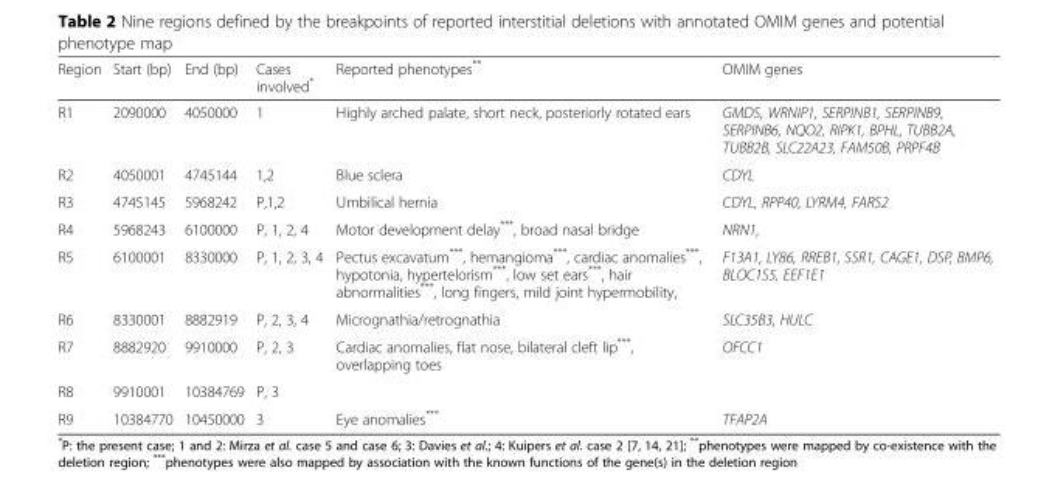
<table><thead><tr><td>Region</td><td>Start (bp)</td><td>End (bp)</td><td>Cases involved*</td><td>Reported phenotypes**</td><td>OMIM genes</td></tr></thead><tbody><tr><td>R1</td><td>2090000</td><td>4050000</td><td>1</td><td>Highly arched palate, short neck, posteriorly rotated ears</td><td>GMDS, WRNIP1, SERPINB1, SERPINB9, SERPINB6, NQO2, RIPK1, BPHL, TUBB2A, TUBB2B, SLC22A23, FAM50B, PRPF4B</td></tr><tr><td>R2</td><td>4050001</td><td>4745144</td><td>1,2</td><td>Blue sclera</td><td>CDYL</td></tr><tr><td>R3</td><td>4745145</td><td>5968242</td><td>P,1,2</td><td>Umbilical hernia</td><td>CDYL, RPP40, LYRM4, FARS2</td></tr><tr><td>R4</td><td>5968243</td><td>6100000</td><td>P, 1, 2, 4</td><td>Motor development delay***, broad nasal bridge</td><td>NRN1,</td></tr><tr><td>R5</td><td>6100001</td><td>8330000</td><td>P, 1, 2, 3, 4</td><td>Pectus excavatum***, hemangioma***, cardiac anomalies***, hypotonia, hypertelorism***, low set ears***, hair abnormalities***, long fingers, mild joint hypermobility,</td><td>F13A1, LY86, RREB1, SSR1, CAGE1, DSP, BMP6, BLOC1S5, EEF1E1</td></tr><tr><td>R6</td><td>8330001</td><td>8882919</td><td>P, 2, 3, 4</td><td>Micrognathia/retrognathia</td><td>SLC35B3, HULC</td></tr><tr><td>R7</td><td>8882920</td><td>9910000</td><td>P, 2, 3</td><td>Cardiac anomalies, flat nose, bilateral cleft lip***, overlapping toes</td><td>OFCC1</td></tr><tr><td>R8</td><td>9910001</td><td>10384769</td><td>P, 3</td><td></td><td></td></tr><tr><td>R9</td><td>10384770</td><td>10450000</td><td>3</td><td>Eye anomalies***</td><td>TFAP2A</td></tr></tbody></table>